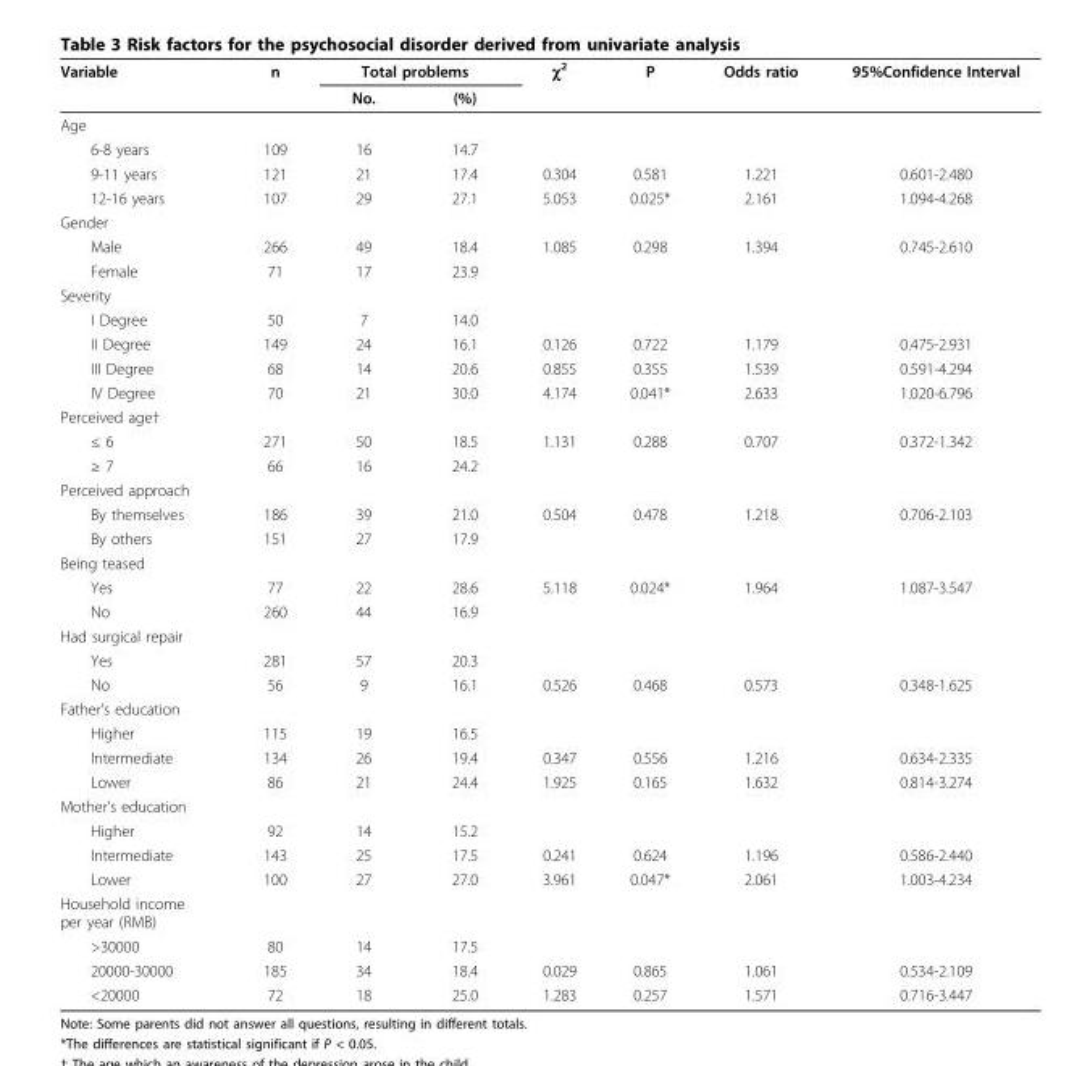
<table><thead><tr><td rowspan="2">Variable</td><td rowspan="2">n</td><td colspan="2">Total problems</td><td rowspan="2">χ<sup>2</sup></td><td rowspan="2">P</td><td rowspan="2">Odds ratio</td><td rowspan="2">95%Confidence Interval</td></tr><tr><td>No.</td><td>(%)</td></tr></thead><tbody><tr><td colspan="8">Age</td></tr><tr><td>6-8 years</td><td>109</td><td>16</td><td>14.7</td><td></td><td></td><td></td><td></td></tr><tr><td>9-11 years</td><td>121</td><td>21</td><td>17.4</td><td>0.304</td><td>0.581</td><td>1.221</td><td>0.601-2.480</td></tr><tr><td>12-16 years</td><td>107</td><td>29</td><td>27.1</td><td>5.053</td><td>0.025*</td><td>2.161</td><td>1.094-4.268</td></tr><tr><td colspan="8">Gender</td></tr><tr><td>Male</td><td>266</td><td>49</td><td>18.4</td><td>1.085</td><td>0.298</td><td>1.394</td><td>0.745-2.610</td></tr><tr><td>Female</td><td>71</td><td>17</td><td>23.9</td><td></td><td></td><td></td><td></td></tr><tr><td colspan="8">Severity</td></tr><tr><td>I Degree</td><td>50</td><td>7</td><td>14.0</td><td></td><td></td><td></td><td></td></tr><tr><td>II Degree</td><td>149</td><td>24</td><td>16.1</td><td>0.126</td><td>0.722</td><td>1.179</td><td>0.475-2.931</td></tr><tr><td>III Degree</td><td>68</td><td>14</td><td>20.6</td><td>0.855</td><td>0.355</td><td>1.539</td><td>0.591-4.294</td></tr><tr><td>IV Degree</td><td>70</td><td>21</td><td>30.0</td><td>4.174</td><td>0.041*</td><td>2.633</td><td>1.020-6.796</td></tr><tr><td colspan="8">Perceived age†</td></tr><tr><td>≤ 6</td><td>271</td><td>50</td><td>18.5</td><td>1.131</td><td>0.288</td><td>0.707</td><td>0.372-1.342</td></tr><tr><td>≥ 7</td><td>66</td><td>16</td><td>24.2</td><td></td><td></td><td></td><td></td></tr><tr><td colspan="8">Perceived approach</td></tr><tr><td>By themselves</td><td>186</td><td>39</td><td>21.0</td><td>0.504</td><td>0.478</td><td>1.218</td><td>0.706-2.103</td></tr><tr><td>By others</td><td>151</td><td>27</td><td>17.9</td><td></td><td></td><td></td><td></td></tr><tr><td colspan="8">Being teased</td></tr><tr><td>Yes</td><td>77</td><td>22</td><td>28.6</td><td>5.118</td><td>0.024*</td><td>1.964</td><td>1.087-3.547</td></tr><tr><td>No</td><td>260</td><td>44</td><td>16.9</td><td></td><td></td><td></td><td></td></tr><tr><td colspan="8">Had surgical repair</td></tr><tr><td>Yes</td><td>281</td><td>57</td><td>20.3</td><td></td><td></td><td></td><td></td></tr><tr><td>No</td><td>56</td><td>9</td><td>16.1</td><td>0.526</td><td>0.468</td><td>0.573</td><td>0.348-1.625</td></tr><tr><td colspan="8">Father’s education</td></tr><tr><td>Higher</td><td>115</td><td>19</td><td>16.5</td><td></td><td></td><td></td><td></td></tr><tr><td>Intermediate</td><td>134</td><td>26</td><td>19.4</td><td>0.347</td><td>0.556</td><td>1.216</td><td>0.634-2.335</td></tr><tr><td>Lower</td><td>86</td><td>21</td><td>24.4</td><td>1.925</td><td>0.165</td><td>1.632</td><td>0.814-3.274</td></tr><tr><td colspan="8">Mother’s education</td></tr><tr><td>Higher</td><td>92</td><td>14</td><td>15.2</td><td></td><td></td><td></td><td></td></tr><tr><td>Intermediate</td><td>143</td><td>25</td><td>17.5</td><td>0.241</td><td>0.624</td><td>1.196</td><td>0.586-2.440</td></tr><tr><td>Lower</td><td>100</td><td>27</td><td>27.0</td><td>3.961</td><td>0.047*</td><td>2.061</td><td>1.003-4.234</td></tr><tr><td colspan="8">Household income per year (RMB)</td></tr><tr><td>&gt;30000</td><td>80</td><td>14</td><td>17.5</td><td></td><td></td><td></td><td></td></tr><tr><td>20000-30000</td><td>185</td><td>34</td><td>18.4</td><td>0.029</td><td>0.865</td><td>1.061</td><td>0.534-2.109</td></tr><tr><td>&lt;20000</td><td>72</td><td>18</td><td>25.0</td><td>1.283</td><td>0.257</td><td>1.571</td><td>0.716-3.447</td></tr></tbody></table>